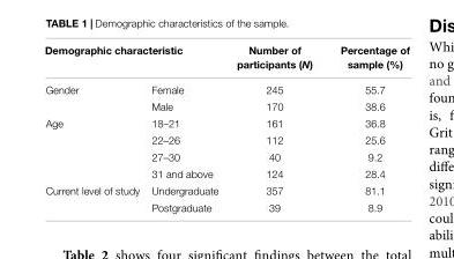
<table><thead><tr><td colspan="2">Demographic characteristic</td><td rowspan="2">Number of participants (N) 245</td><td rowspan="2">Percentage of sample (%) 55.7</td></tr><tr><td>Gender</td><td>Female</td></tr></thead><tbody><tr><td></td><td>Male</td><td>170</td><td>38.6</td></tr><tr><td rowspan="4">Age</td><td>18–21</td><td>161</td><td>36.8</td></tr><tr><td>22–26</td><td>112</td><td>25.6</td></tr><tr><td>27–30</td><td>40</td><td>9.2</td></tr><tr><td>31 and above</td><td>124</td><td>28.4</td></tr><tr><td rowspan="2">Current level of study</td><td>Undergraduate</td><td>357</td><td>81.1</td></tr><tr><td>Postgraduate</td><td>39</td><td>8.9</td></tr></tbody></table>